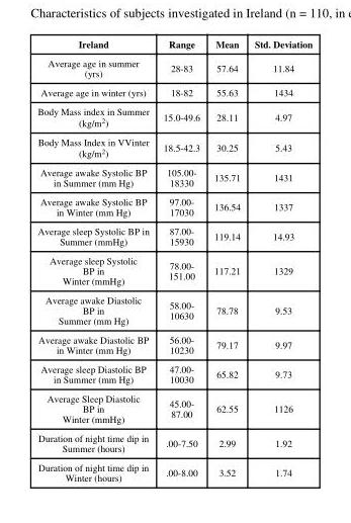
<table><thead><tr><td>Ireland</td><td>Range</td><td>Mean</td><td>Std. Deviation</td></tr></thead><tbody><tr><td>Average age in summer (yrs)</td><td>28-83</td><td>57.64</td><td>11.84</td></tr><tr><td>Average age in winter (yrs)</td><td>18-82</td><td>55.63</td><td>1434</td></tr><tr><td>Body Mass index in Summer (kg/m<sup>2</sup>)</td><td>15.0-49.6</td><td>28.11</td><td>4.97</td></tr><tr><td>Body Mass Index in VVinter (kg/m<sup>2</sup>)</td><td>18.5-42.3</td><td>30.25</td><td>5.43</td></tr><tr><td>Average awake Systolic BP in Summer (mm Hg)</td><td>105.00- 18330</td><td>135.71</td><td>1431</td></tr><tr><td>Average awake Systolic BP in Winter (mm Hg)</td><td>97.00- 17030</td><td>136.54</td><td>1337</td></tr><tr><td>Average sleep Systolic BP in Summer (mmHg)</td><td>87.00- 15930</td><td>119.14</td><td>14.93</td></tr><tr><td>Average sleep Systolic BP in Winter (mmHg)</td><td>78.00- 151.00</td><td>117.21</td><td>1329</td></tr><tr><td>Average awake Diastolic BP in Summer (mm Hg)</td><td>58.00- 10630</td><td>78.78</td><td>9.53</td></tr><tr><td>Average awake Diastolic BP in Winter (mm Hg)</td><td>56.00- 10230</td><td>79.17</td><td>9.97</td></tr><tr><td>Average sleep Diastolic BP in Summer (mm Hg)</td><td>47.00- 10030</td><td>65.82</td><td>9.73</td></tr><tr><td>Average Sleep Diastolic BP in Winter (mmHg)</td><td>45.00- 87.00</td><td>62.55</td><td>1126</td></tr><tr><td>Duration of night time dip in Summer (hours)</td><td>.00-7.50</td><td>2.99</td><td>1.92</td></tr><tr><td>Duration of night time dip in Winter (hours)</td><td>.00-8.00</td><td>3.52</td><td>1.74</td></tr></tbody></table>